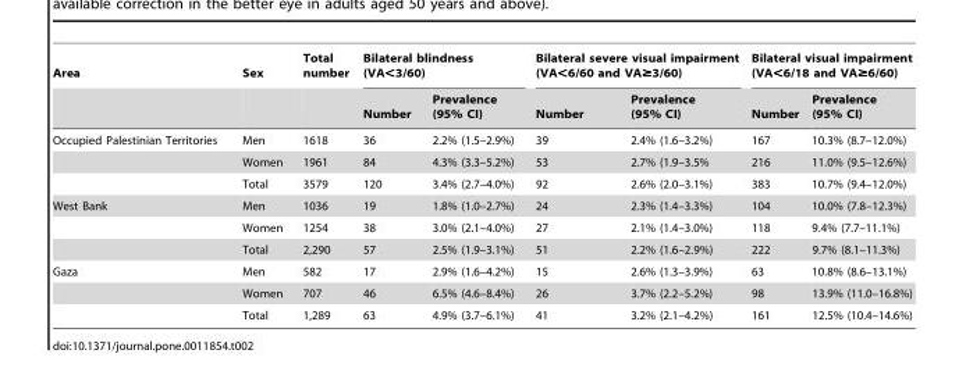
<table><thead><tr><td rowspan="2">Area</td><td rowspan="2">Sex</td><td rowspan="2">Total number</td><td colspan="2">Bilateral blindness (VA&lt;3/60)</td><td colspan="2">Bilateral severe visual impairment (VA&lt;6/60 and VA≥3/60)</td><td colspan="2">Bilateral visual impairment (VA&lt;6/18 and VA≥6/60)</td></tr><tr><td>Number</td><td>Prevalence (95% CI)</td><td>Number</td><td>Prevalence (95% CI)</td><td>Number</td><td>Prevalence (95% CI)</td></tr></thead><tbody><tr><td rowspan="3">Occupied Palestinian Territories</td><td>Men</td><td>1618</td><td>36</td><td>2.2% (1.5–2.9%)</td><td>39</td><td>2.4% (1.6–3.2%)</td><td>167</td><td>10.3% (8.7–12.0%)</td></tr><tr><td>Women</td><td>1961</td><td>84</td><td>4.3% (3.3–5.2%)</td><td>53</td><td>2.7% (1.9–3.5%</td><td>216</td><td>11.0% (9.5–12.6%)</td></tr><tr><td>Total</td><td>3579</td><td>120</td><td>3.4% (2.7–4.0%)</td><td>92</td><td>2.6% (2.0–3.1%)</td><td>383</td><td>10.7% (9.4–12.0%)</td></tr><tr><td rowspan="3">West Bank</td><td>Men</td><td>1036</td><td>19</td><td>1.8% (1.0–2.7%)</td><td>24</td><td>2.3% (1.4–3.3%)</td><td>104</td><td>10.0% (7.8–12.3%)</td></tr><tr><td>Women</td><td>1254</td><td>38</td><td>3.0% (2.1–4.0%)</td><td>27</td><td>2.1% (1.4–3.0%)</td><td>118</td><td>9.4% (7.7–11.1%)</td></tr><tr><td>Total</td><td>2,290</td><td>57</td><td>2.5% (1.9–3.1%)</td><td>51</td><td>2.2% (1.6–2.9%)</td><td>222</td><td>9.7% (8.1–11.3%)</td></tr><tr><td rowspan="3">Gaza</td><td>Men</td><td>582</td><td>17</td><td>2.9% (1.6–4.2%)</td><td>15</td><td>2.6% (1.3–3.9%)</td><td>63</td><td>10.8% (8.6–13.1%)</td></tr><tr><td>Women</td><td>707</td><td>46</td><td>6.5% (4.6–8.4%)</td><td>26</td><td>3.7% (2.2–5.2%)</td><td>98</td><td>13.9% (11.0–16.8%)</td></tr><tr><td>Total</td><td>1,289</td><td>63</td><td>4.9% (3.7–6.1%)</td><td>41</td><td>3.2% (2.1–4.2%)</td><td>161</td><td>12.5% (10.4–14.6%)</td></tr></tbody></table>